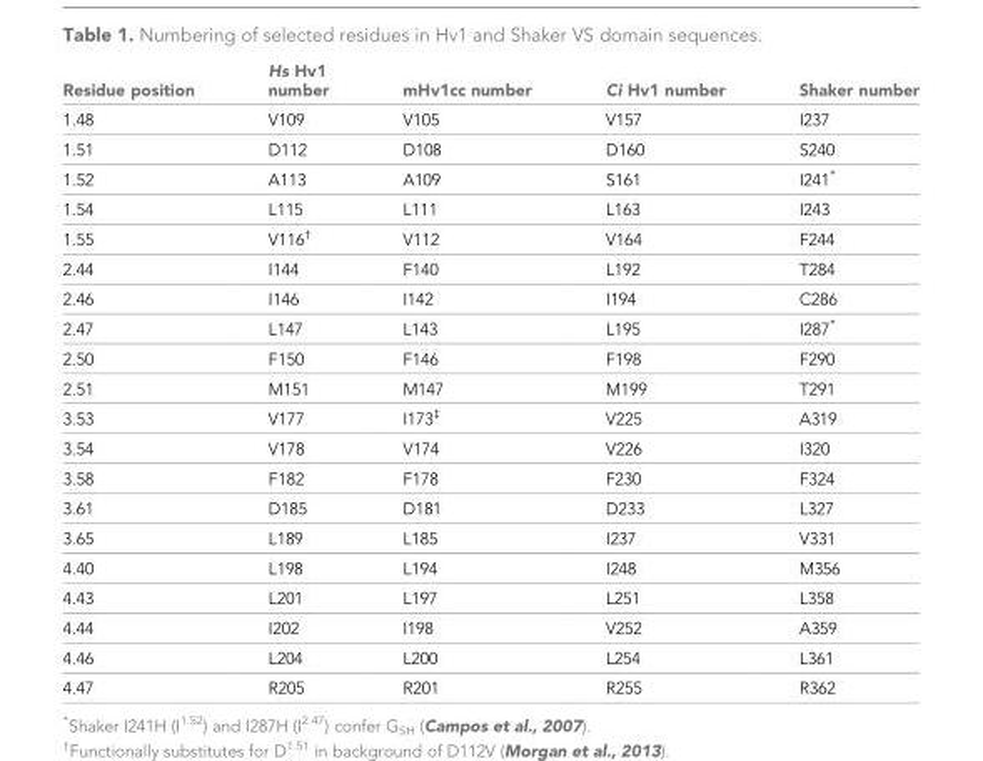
<table><thead><tr><td>Residue position</td><td>Hs Hv1 number</td><td>mHv1cc number</td><td>Ci Hv1 number</td><td>Shaker number</td></tr></thead><tbody><tr><td>1.48</td><td>V109</td><td>V105</td><td>V157</td><td>I237</td></tr><tr><td>1.51</td><td>D112</td><td>D108</td><td>D160</td><td>S240</td></tr><tr><td>1.52</td><td>A113</td><td>A109</td><td>S161</td><td>I241*</td></tr><tr><td>1.54</td><td>L115</td><td>L111</td><td>L163</td><td>I243</td></tr><tr><td>1.55</td><td>V116<sup>†</sup></td><td>V112</td><td>V164</td><td>F244</td></tr><tr><td>2.44</td><td>I144</td><td>F140</td><td>L192</td><td>T284</td></tr><tr><td>2.46</td><td>I146</td><td>I142</td><td>I194</td><td>C286</td></tr><tr><td>2.47</td><td>L147</td><td>L143</td><td>L195</td><td>I287*</td></tr><tr><td>2.50</td><td>F150</td><td>F146</td><td>F198</td><td>F290</td></tr><tr><td>2.51</td><td>M151</td><td>M147</td><td>M199</td><td>T291</td></tr><tr><td>3.53</td><td>V177</td><td>I173<sup>‡</sup></td><td>V225</td><td>A319</td></tr><tr><td>3.54</td><td>V178</td><td>V174</td><td>V226</td><td>I320</td></tr><tr><td>3.58</td><td>F182</td><td>F178</td><td>F230</td><td>F324</td></tr><tr><td>3.61</td><td>D185</td><td>D181</td><td>D233</td><td>L327</td></tr><tr><td>3.65</td><td>L189</td><td>L185</td><td>I237</td><td>V331</td></tr><tr><td>4.40</td><td>L198</td><td>L194</td><td>I248</td><td>M356</td></tr><tr><td>4.43</td><td>L201</td><td>L197</td><td>L251</td><td>L358</td></tr><tr><td>4.44</td><td>I202</td><td>I198</td><td>V252</td><td>A359</td></tr><tr><td>4.46</td><td>L204</td><td>L200</td><td>L254</td><td>L361</td></tr><tr><td>4.47</td><td>R205</td><td>R201</td><td>R255</td><td>R362</td></tr></tbody></table>